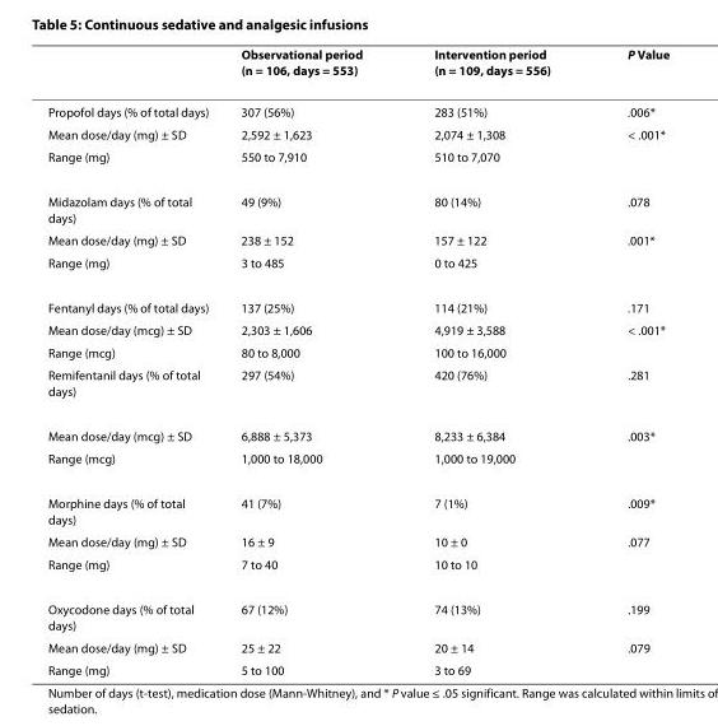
<table><thead><tr><td></td><td>Observational period (n = 106, days = 553)</td><td>Intervention period (n = 109, days = 556)</td><td>P Value</td></tr></thead><tbody><tr><td>Propofol days (% of total days)</td><td>307 (56%)</td><td>283 (51%)</td><td>.006*</td></tr><tr><td>Mean dose/day (mg) ± SD</td><td>2,592 ± 1,623</td><td>2,074 ± 1,308</td><td>&lt; .001*</td></tr><tr><td>Range (mg)</td><td>550 to 7,910</td><td>510 to 7,070</td><td></td></tr><tr><td>Midazolam days (% of total days)</td><td>49 (9%)</td><td>80 (14%)</td><td>.078</td></tr><tr><td>Mean dose/day (mg) ± SD</td><td>238 ± 152</td><td>157 ± 122</td><td>.001*</td></tr><tr><td>Range (mg)</td><td>3 to 485</td><td>0 to 425</td><td></td></tr><tr><td>Fentanyl days (% of total days)</td><td>137 (25%)</td><td>114 (21%)</td><td>.171</td></tr><tr><td>Mean dose/day (mcg) ± SD</td><td>2,303 ± 1,606</td><td>4,919 ± 3,588</td><td>&lt; .001*</td></tr><tr><td>Range (mcg)</td><td>80 to 8,000</td><td>100 to 16,000</td><td></td></tr><tr><td>Remifentanil days (% of total days)</td><td>297 (54%)</td><td>420 (76%)</td><td>.281</td></tr><tr><td>Mean dose/day (mcg) ± SD</td><td>6,888 ± 5,373</td><td>8,233 ± 6,384</td><td>.003*</td></tr><tr><td>Range (mcg)</td><td>1,000 to 18,000</td><td>1,000 to 19,000</td><td></td></tr><tr><td>Morphine days (% of total days)</td><td>41 (7%)</td><td>7 (1%)</td><td>.009*</td></tr><tr><td>Mean dose/day (mg) ± SD</td><td>16 ± 9</td><td>10 ± 0</td><td>.077</td></tr><tr><td>Range (mg)</td><td>7 to 40</td><td>10 to 10</td><td></td></tr><tr><td>Oxycodone days (% of total days)</td><td>67 (12%)</td><td>74 (13%)</td><td>.199</td></tr><tr><td>Mean dose/day (mg) ± SD</td><td>25 ± 22</td><td>20 ± 14</td><td>.079</td></tr><tr><td>Range (mg)</td><td>5 to 100</td><td>3 to 69</td><td></td></tr></tbody></table>